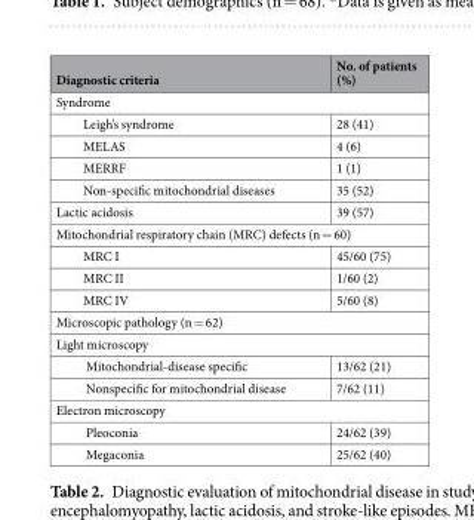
<table><thead><tr><td>Diagnostic criteria</td><td>No. of patients (%)</td></tr></thead><tbody><tr><td colspan="2">Syndrome</td></tr><tr><td>Leigh’s syndrome</td><td>28 (41)</td></tr><tr><td>MELAS</td><td>4 (6)</td></tr><tr><td>MERRF</td><td>1 (1)</td></tr><tr><td>Non-specific mitochondrial diseases</td><td>35 (52)</td></tr><tr><td>Lactic acidosis</td><td>39 (57)</td></tr><tr><td colspan="2">Mitochondrial respiratory chain (MRC) defects (n = 60)</td></tr><tr><td>MRC I</td><td>45/60 (75)</td></tr><tr><td>MRC II</td><td>1/60 (2)</td></tr><tr><td>MRC IV</td><td>5/60 (8)</td></tr><tr><td colspan="2">Microscopic pathology (n = 62)</td></tr><tr><td colspan="2">Light microscopy</td></tr><tr><td>Mitochondrial-disease specific</td><td>13/62 (21)</td></tr><tr><td>Nonspecific for mitochondrial disease</td><td>7/62 (11)</td></tr><tr><td colspan="2">Electron microscopy</td></tr><tr><td>Pleoconia</td><td>24/62 (39)</td></tr><tr><td>Megaconia</td><td>25/62 (40)</td></tr></tbody></table>